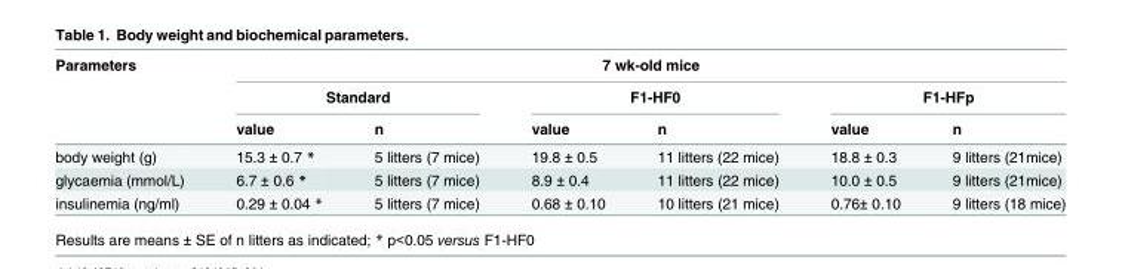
<table><thead><tr><td rowspan="3">Parameters</td><td colspan="6">7 wk-old mice</td></tr><tr><td colspan="2">Standard</td><td colspan="2">F1-HF0</td><td colspan="2">F1-HFp</td></tr><tr><td>value</td><td>n</td><td>value</td><td>n</td><td>value</td><td>n</td></tr></thead><tbody><tr><td>body weight (g)</td><td>15.3 ± 0.7 *</td><td>5 litters (7 mice)</td><td>19.8 ± 0.5</td><td>11 litters (22 mice)</td><td>18.8 ± 0.3</td><td>9 litters (21mice)</td></tr><tr><td>glycaemia (mmol/L)</td><td>6.7 ± 0.6 *</td><td>5 litters (7 mice)</td><td>8.9 ± 0.4</td><td>11 litters (22 mice)</td><td>10.0 ± 0.5</td><td>9 litters (21mice)</td></tr><tr><td>insulinemia (ng/ml)</td><td>0.29 ± 0.04 *</td><td>5 litters (7 mice)</td><td>0.68 ± 0.10</td><td>10 litters (21 mice)</td><td>0.76± 0.10</td><td>9 litters (18 mice)</td></tr></tbody></table>